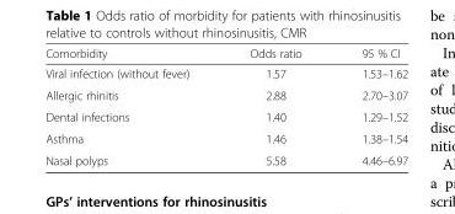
<table><thead><tr><td>Comorbidity</td><td>Odds ratio</td><td>95 % CI</td></tr></thead><tbody><tr><td>Viral infection (without fever)</td><td>1.57</td><td>1.53–1.62</td></tr><tr><td>Allergic rhinitis</td><td>2.88</td><td>2.70–3.07</td></tr><tr><td>Dental infections</td><td>1.40</td><td>1.29–1.52</td></tr><tr><td>Asthma</td><td>1.46</td><td>1.38–1.54</td></tr><tr><td>Nasal polyps</td><td>5.58</td><td>4.46–6.97</td></tr></tbody></table>